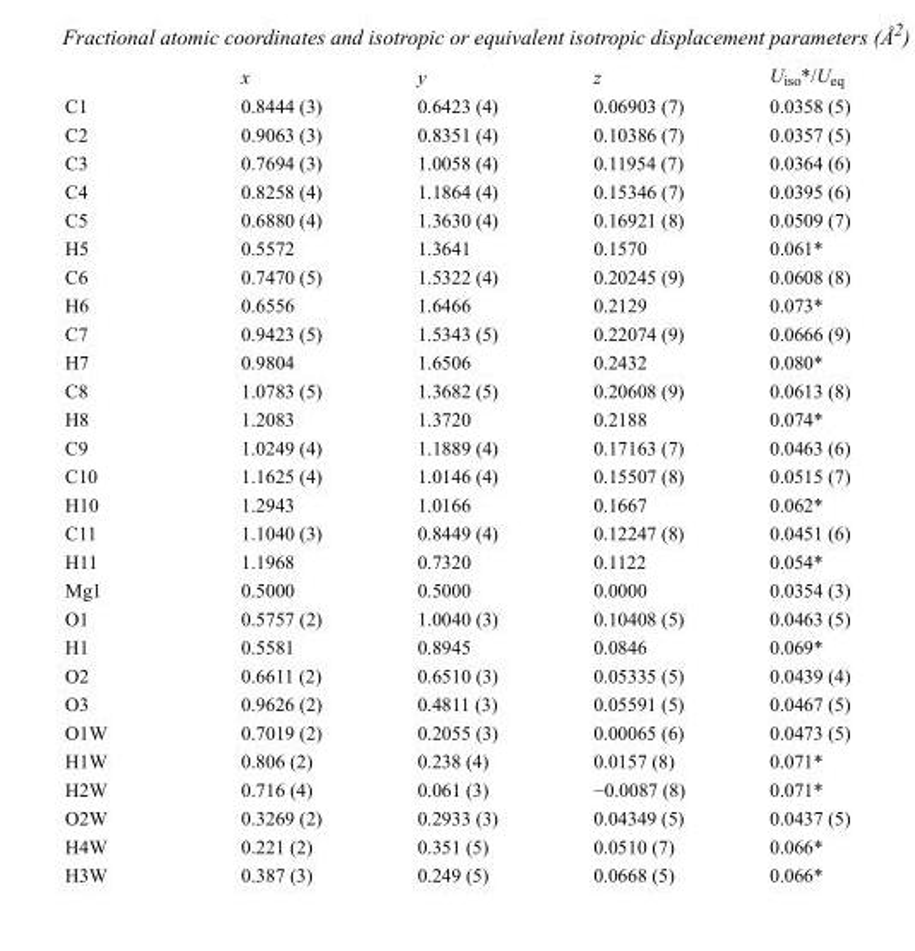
<table><thead><tr><td></td><td>x</td><td>y</td><td>z</td><td>U<sub>iso</sub>*/U<sub>eq</sub></td></tr></thead><tbody><tr><td>C1</td><td>0.8444 (3)</td><td>0.6423 (4)</td><td>0.06903 (7)</td><td>0.0358 (5)</td></tr><tr><td>C2</td><td>0.9063 (3)</td><td>0.8351 (4)</td><td>0.10386 (7)</td><td>0.0357 (5)</td></tr><tr><td>C3</td><td>0.7694 (3)</td><td>1.0058 (4)</td><td>0.11954 (7)</td><td>0.0364 (6)</td></tr><tr><td>C4</td><td>0.8258 (4)</td><td>1.1864 (4)</td><td>0.15346 (7)</td><td>0.0395 (6)</td></tr><tr><td>C5</td><td>0.6880 (4)</td><td>1.3630 (4)</td><td>0.16921 (8)</td><td>0.0509 (7)</td></tr><tr><td>H5</td><td>0.5572</td><td>1.3641</td><td>0.1570</td><td>0.061*</td></tr><tr><td>C6</td><td>0.7470 (5)</td><td>1.5322 (4)</td><td>0.20245 (9)</td><td>0.0608 (8)</td></tr><tr><td>H6</td><td>0.6556</td><td>1.6466</td><td>0.2129</td><td>0.073*</td></tr><tr><td>C7</td><td>0.9423 (5)</td><td>1.5343 (5)</td><td>0.22074 (9)</td><td>0.0666 (9)</td></tr><tr><td>H7</td><td>0.9804</td><td>1.6506</td><td>0.2432</td><td>0.080*</td></tr><tr><td>C8</td><td>1.0783 (5)</td><td>1.3682 (5)</td><td>0.20608 (9)</td><td>0.0613 (8)</td></tr><tr><td>H8</td><td>1.2083</td><td>1.3720</td><td>0.2188</td><td>0.074*</td></tr><tr><td>C9</td><td>1.0249 (4)</td><td>1.1889 (4)</td><td>0.17163 (7)</td><td>0.0463 (6)</td></tr><tr><td>C10</td><td>1.1625 (4)</td><td>1.0146 (4)</td><td>0.15507 (8)</td><td>0.0515 (7)</td></tr><tr><td>H10</td><td>1.2943</td><td>1.0166</td><td>0.1667</td><td>0.062*</td></tr><tr><td>C11</td><td>1.1040 (3)</td><td>0.8449 (4)</td><td>0.12247 (8)</td><td>0.0451 (6)</td></tr><tr><td>H11</td><td>1.1968</td><td>0.7320</td><td>0.1122</td><td>0.054*</td></tr><tr><td>Mg1</td><td>0.5000</td><td>0.5000</td><td>0.0000</td><td>0.0354 (3)</td></tr><tr><td>O1</td><td>0.5757 (2)</td><td>1.0040 (3)</td><td>0.10408 (5)</td><td>0.0463 (5)</td></tr><tr><td>H1</td><td>0.5581</td><td>0.8945</td><td>0.0846</td><td>0.069*</td></tr><tr><td>O2</td><td>0.6611 (2)</td><td>0.6510 (3)</td><td>0.05335 (5)</td><td>0.0439 (4)</td></tr><tr><td>O3</td><td>0.9626 (2)</td><td>0.4811 (3)</td><td>0.05591 (5)</td><td>0.0467 (5)</td></tr><tr><td>O1W</td><td>0.7019 (2)</td><td>0.2055 (3)</td><td>0.00065 (6)</td><td>0.0473 (5)</td></tr><tr><td>H1W</td><td>0.806 (2)</td><td>0.238 (4)</td><td>0.0157 (8)</td><td>0.071*</td></tr><tr><td>H2W</td><td>0.716 (4)</td><td>0.061 (3)</td><td>−0.0087 (8)</td><td>0.071*</td></tr><tr><td>O2W</td><td>0.3269 (2)</td><td>0.2933 (3)</td><td>0.04349 (5)</td><td>0.0437 (5)</td></tr><tr><td>H4W</td><td>0.221 (2)</td><td>0.351 (5)</td><td>0.0510 (7)</td><td>0.066*</td></tr><tr><td>H3W</td><td>0.387 (3)</td><td>0.249 (5)</td><td>0.0668 (5)</td><td>0.066*</td></tr></tbody></table>